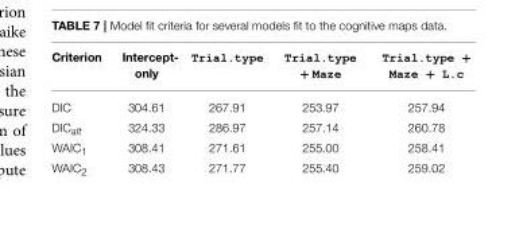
<table><thead><tr><td>Criterion</td><td>Intercept- only</td><td>Trial.type</td><td>Trial.type + Maze</td><td>Trial.type + Maze + L.c</td></tr></thead><tbody><tr><td>DIC</td><td>304.61</td><td>267.91</td><td>253.97</td><td>257.94</td></tr><tr><td>DIC<sub>alt</sub></td><td>324.33</td><td>286.97</td><td>257.14</td><td>260.78</td></tr><tr><td>WAIC<sub>1</sub></td><td>308.41</td><td>271.61</td><td>255.00</td><td>258.41</td></tr><tr><td>WAIC<sub>2</sub></td><td>308.43</td><td>271.77</td><td>255.40</td><td>259.02</td></tr></tbody></table>